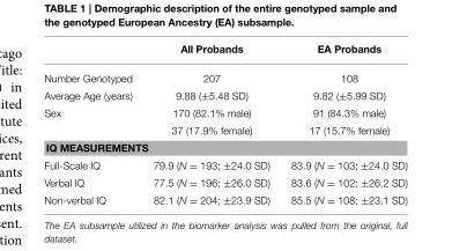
<table><thead><tr><td></td><td>All Probands</td><td>EA Probands</td></tr></thead><tbody><tr><td>Number Genotyped</td><td>207</td><td>108</td></tr><tr><td>Average Age (years)</td><td>9.88 (±5.48 SD)</td><td>9.82 (±5.99 SD)</td></tr><tr><td rowspan="2">Sex</td><td>170 (82.1% male)</td><td>91 (84.3% male)</td></tr><tr><td>37 (17.9% female)</td><td>17 (15.7% female)</td></tr><tr><td colspan="3">IQ MEASUREMENTS</td></tr><tr><td>Full-Scale IQ</td><td>79.9 (N = 193; ±24.0 SD)</td><td>83.9 (N = 103; ±24.0 SD)</td></tr><tr><td>Verbal IQ</td><td>77.5 (N = 196; ±26.0 SD)</td><td>83.6 (N = 102; ±26.2 SD)</td></tr><tr><td>Non-verbal IQ</td><td>82.1 (N = 204; ±23.9 SD)</td><td>85.5 (N = 108; ±23.1 SD)</td></tr></tbody></table>